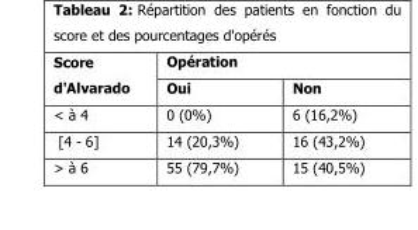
<table><thead><tr><td rowspan="2">Score d&#x27;Alvarado</td><td colspan="2">Opération</td></tr><tr><td>Oui</td><td>Non</td></tr></thead><tbody><tr><td>&lt; à 4</td><td>0 (0%)</td><td>6 (16,2%)</td></tr><tr><td>[4 - 6]</td><td>14 (20,3%)</td><td>16 (43,2%)</td></tr><tr><td>&gt; à 6</td><td>55 (79,7%)</td><td>15 (40,5%)</td></tr></tbody></table>